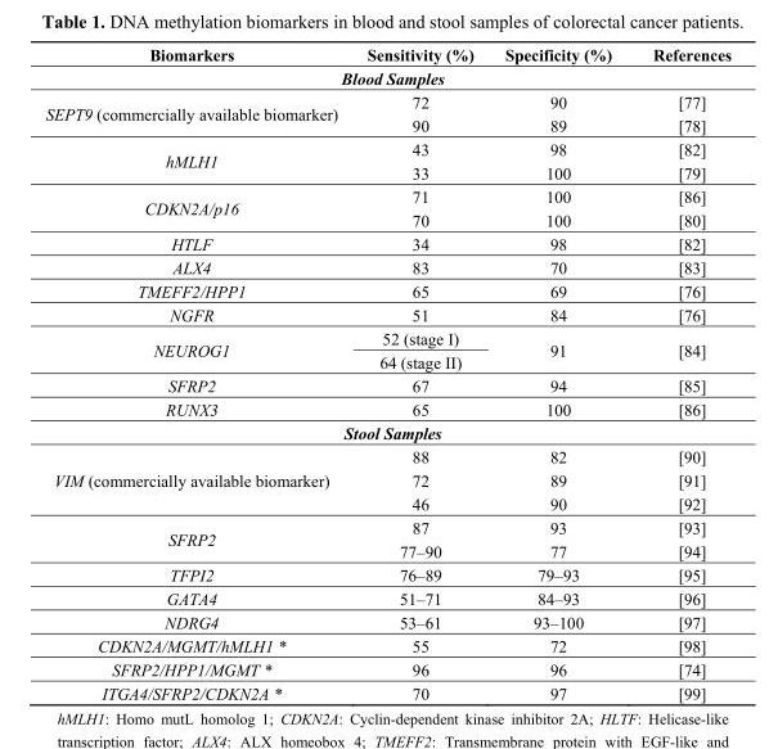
<table><thead><tr><td>Biomarkers</td><td>Sensitivity (%)</td><td>Specificity (%)</td><td>References</td></tr></thead><tbody><tr><td colspan="4">Blood Samples</td></tr><tr><td rowspan="2">SEPT9 (commercially available biomarker)</td><td>72</td><td>90</td><td>[77]</td></tr><tr><td>90</td><td>89</td><td>[78]</td></tr><tr><td rowspan="2">hMLH1</td><td>43</td><td>98</td><td>[82]</td></tr><tr><td>33</td><td>100</td><td>[79]</td></tr><tr><td rowspan="2">CDKN2A/p16</td><td>71</td><td>100</td><td>[86]</td></tr><tr><td>70</td><td>100</td><td>[80]</td></tr><tr><td>HTLF</td><td>34</td><td>98</td><td>[82]</td></tr><tr><td>ALX4</td><td>83</td><td>70</td><td>[83]</td></tr><tr><td>TMEFF2/HPP1</td><td>65</td><td>69</td><td>[76]</td></tr><tr><td>NGFR</td><td>51</td><td>84</td><td>[76]</td></tr><tr><td rowspan="2">NEUROG1</td><td>52 (stage I)</td><td rowspan="2">91</td><td rowspan="2">[84]</td></tr><tr><td>64 (stage II)</td></tr><tr><td>SFRP2</td><td>67</td><td>94</td><td>[85]</td></tr><tr><td>RUNX3</td><td>65</td><td>100</td><td>[86]</td></tr><tr><td colspan="4">Stool Samples</td></tr><tr><td rowspan="3">VIM (commercially available biomarker)</td><td>88</td><td>82</td><td>[90]</td></tr><tr><td>72</td><td>89</td><td>[91]</td></tr><tr><td>46</td><td>90</td><td>[92]</td></tr><tr><td rowspan="2">SFRP2</td><td>87</td><td>93</td><td>[93]</td></tr><tr><td>77–90</td><td>77</td><td>[94]</td></tr><tr><td>TFPI2</td><td>76–89</td><td>79–93</td><td>[95]</td></tr><tr><td>GATA4</td><td>51–71</td><td>84–93</td><td>[96]</td></tr><tr><td>NDRG4</td><td>53–61</td><td>93–100</td><td>[97]</td></tr><tr><td>CDKN2A/MGMT/hMLH1 *</td><td>55</td><td>72</td><td>[98]</td></tr><tr><td>SFRP2/HPP1/MGMT *</td><td>96</td><td>96</td><td>[74]</td></tr><tr><td>ITGA4/SFRP2/CDKN2A *</td><td>70</td><td>97</td><td>[99]</td></tr></tbody></table>